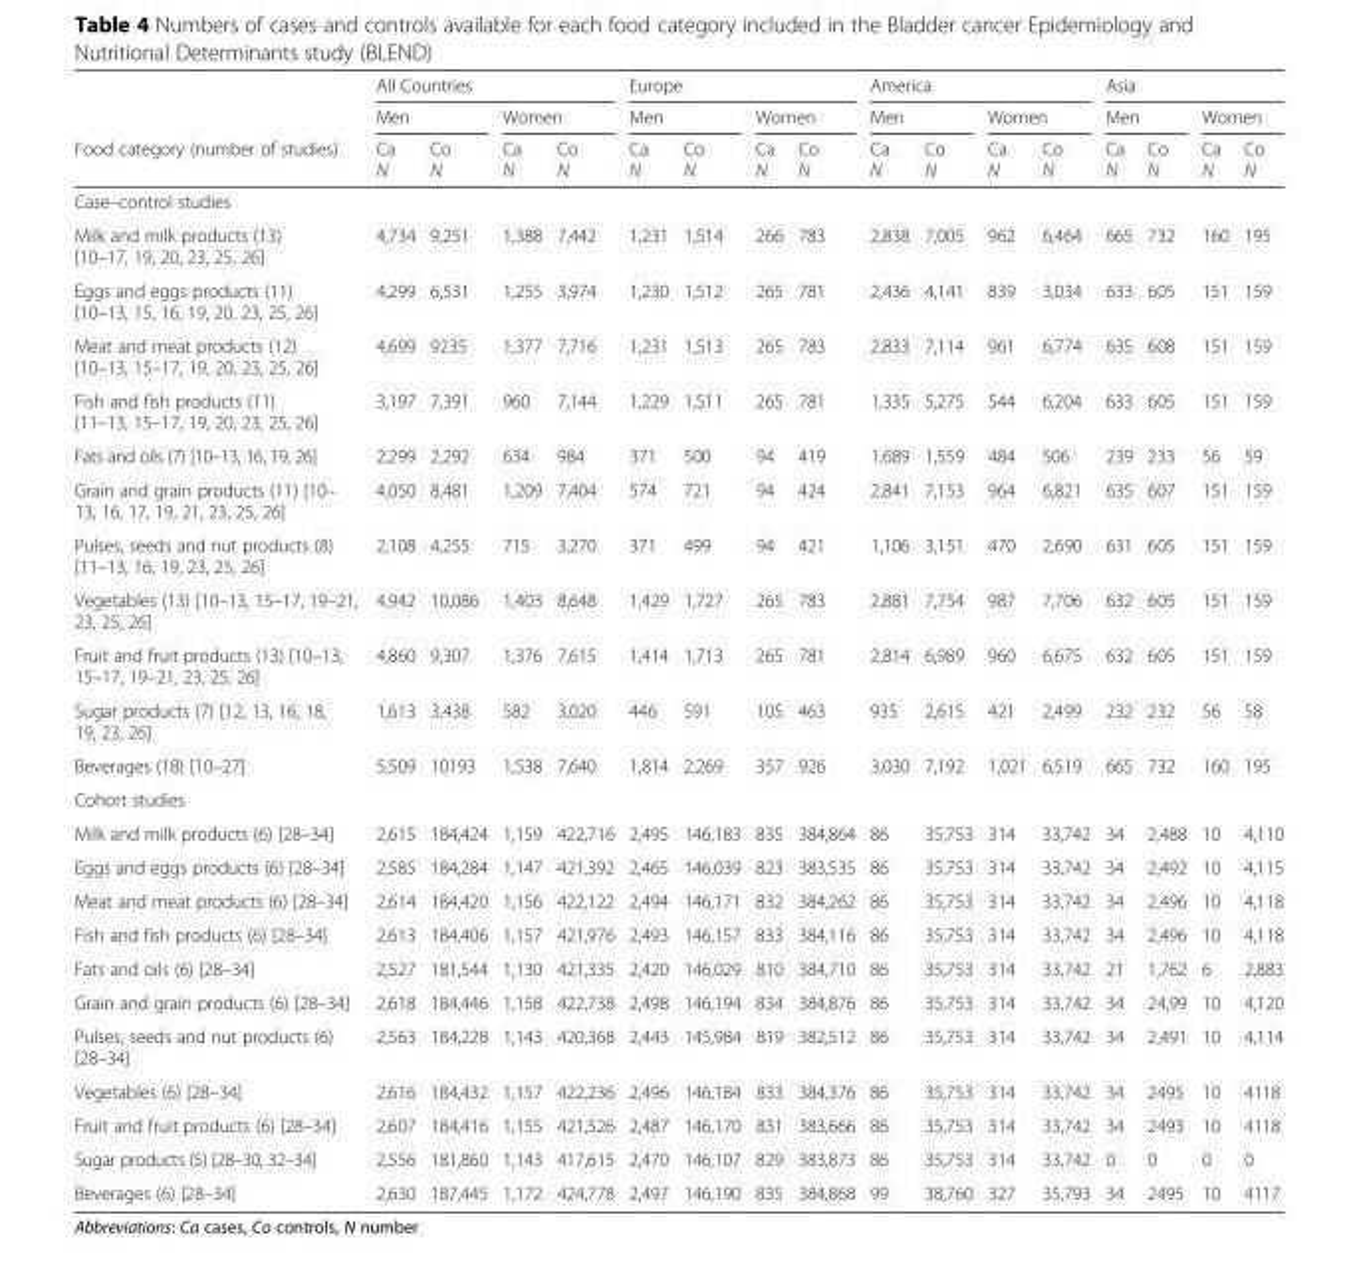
<table><thead><tr><td rowspan="3">Food category (number of studies)</td><td colspan="4">All Countries</td><td colspan="4">Europe</td><td colspan="4">America</td><td colspan="4">Asia</td></tr><tr><td colspan="2">Men</td><td colspan="2">Women</td><td colspan="2">Men</td><td colspan="2">Women</td><td colspan="2">Men</td><td colspan="2">Women</td><td colspan="2">Men</td><td colspan="2">Women</td></tr><tr><td>Ca N</td><td>Co N</td><td>Ca N</td><td>Co N</td><td>Ca N</td><td>Co N</td><td>Ca N</td><td>Co N</td><td>Ca N</td><td>Co N</td><td>Ca N</td><td>Co N</td><td>Ca N</td><td>Co N</td><td>Ca N</td><td>Co N</td></tr></thead><tbody><tr><td colspan="17">Case–control studies</td></tr><tr><td>Milk and milk products (13) [10–17, 19, 20, 23, 25, 26]</td><td>4,734</td><td>9,251</td><td>1,388</td><td>7,442</td><td>1,231</td><td>1,514</td><td>266</td><td>783</td><td>2,838</td><td>7,005</td><td>962</td><td>6,464</td><td>665</td><td>732</td><td>160</td><td>195</td></tr><tr><td>Eggs and eggs products (11) [10–13, 15, 16, 19, 20, 23, 25, 26]</td><td>4,299</td><td>6,531</td><td>1,255</td><td>3,974</td><td>1,230</td><td>1,512</td><td>265</td><td>781</td><td>2,436</td><td>4,141</td><td>839</td><td>3,034</td><td>633</td><td>605</td><td>151</td><td>159</td></tr><tr><td>Meat and meat products (12) [10–13, 15–17, 19, 20, 23, 25, 26]</td><td>4,699</td><td>9235</td><td>1,377</td><td>7,716</td><td>1,231</td><td>1,513</td><td>265</td><td>783</td><td>2,833</td><td>7,114</td><td>961</td><td>6,774</td><td>635</td><td>608</td><td>151</td><td>159</td></tr><tr><td>Fish and fish products (11) [11–13, 15–17, 19, 20, 23, 25, 26]</td><td>3,197</td><td>7,391</td><td>960</td><td>7,144</td><td>1,229</td><td>1,511</td><td>265</td><td>781</td><td>1,335</td><td>5,275</td><td>544</td><td>6,204</td><td>633</td><td>605</td><td>151</td><td>159</td></tr><tr><td>Fats and oils (7) [10–13, 16, 19, 26]</td><td>2,299</td><td>2,292</td><td>634</td><td>984</td><td>371</td><td>500</td><td>94</td><td>419</td><td>1,689</td><td>1,559</td><td>484</td><td>506</td><td>239</td><td>233</td><td>56</td><td>59</td></tr><tr><td>Grain and grain products (11) [10– 13, 16, 17, 19, 21, 23, 25, 26]</td><td>4,050</td><td>8,481</td><td>1,209</td><td>7,404</td><td>574</td><td>721</td><td>94</td><td>424</td><td>2,841</td><td>7,153</td><td>964</td><td>6,821</td><td>635</td><td>607</td><td>151</td><td>159</td></tr><tr><td>Pulses, seeds and nut products (8) [11–13, 16, 19, 23, 25, 26]</td><td>2,108</td><td>4,255</td><td>715</td><td>3,270</td><td>371</td><td>499</td><td>94</td><td>421</td><td>1,106</td><td>3,151</td><td>470</td><td>2,690</td><td>631</td><td>605</td><td>151</td><td>159</td></tr><tr><td>Vegetables (13) [10–13, 15–17, 19–21, 23, 25, 26]</td><td>4,942</td><td>10,086</td><td>1,403</td><td>8,648</td><td>1,429</td><td>1,727</td><td>265</td><td>783</td><td>2,881</td><td>7,754</td><td>987</td><td>7,706</td><td>632</td><td>605</td><td>151</td><td>159</td></tr><tr><td>Fruit and fruit products (13) [10–13, 15–17, 19–21, 23, 25, 26]</td><td>4,860</td><td>9,307</td><td>1,376</td><td>7,615</td><td>1,414</td><td>1,713</td><td>265</td><td>781</td><td>2,814</td><td>6,989</td><td>960</td><td>6,675</td><td>632</td><td>605</td><td>151</td><td>159</td></tr><tr><td>Sugar products (7) [12, 13, 16, 18, 19, 23, 26]</td><td>1,613</td><td>3,438</td><td>582</td><td>3,020</td><td>446</td><td>591</td><td>105</td><td>463</td><td>935</td><td>2,615</td><td>421</td><td>2,499</td><td>232</td><td>232</td><td>56</td><td>58</td></tr><tr><td>Beverages (18) [10–27]</td><td>5,509</td><td>10193</td><td>1,538</td><td>7,640</td><td>1,814</td><td>2,269</td><td>357</td><td>926</td><td>3,030</td><td>7,192</td><td>1,021</td><td>6,519</td><td>665</td><td>732</td><td>160</td><td>195</td></tr><tr><td colspan="17">Cohort studies</td></tr><tr><td>Milk and milk products (6) [28–34]</td><td>2,615</td><td>184,424</td><td>1,159</td><td>422,716</td><td>2,495</td><td>146,183</td><td>835</td><td>384,864</td><td>86</td><td>35,753</td><td>314</td><td>33,742</td><td>34</td><td>2,488</td><td>10</td><td>4,110</td></tr><tr><td>Eggs and eggs products (6) [28–34]</td><td>2,585</td><td>184,284</td><td>1,147</td><td>421,392</td><td>2,465</td><td>146,039</td><td>823</td><td>383,535</td><td>86</td><td>35,753</td><td>314</td><td>33,742</td><td>34</td><td>2,492</td><td>10</td><td>4,115</td></tr><tr><td>Meat and meat products (6) [28–34]</td><td>2,614</td><td>184,420</td><td>1,156</td><td>422,122</td><td>2,494</td><td>146,171</td><td>832</td><td>384,262</td><td>86</td><td>35,753</td><td>314</td><td>33,742</td><td>34</td><td>2,496</td><td>10</td><td>4,118</td></tr><tr><td>Fish and fish products (6) [28–34]</td><td>2,613</td><td>184,406</td><td>1,157</td><td>421,976</td><td>2,493</td><td>146,157</td><td>833</td><td>384,116</td><td>86</td><td>35,753</td><td>314</td><td>33,742</td><td>34</td><td>2,496</td><td>10</td><td>4,118</td></tr><tr><td>Fats and oils (6) [28–34]</td><td>2,527</td><td>181,544</td><td>1,130</td><td>421,335</td><td>2,420</td><td>146,029</td><td>810</td><td>384,710</td><td>86</td><td>35,753</td><td>314</td><td>33,742</td><td>21</td><td>1,762</td><td>6</td><td>2,883</td></tr><tr><td>Grain and grain products (6) [28–34]</td><td>2,618</td><td>184,446</td><td>1,158</td><td>422,738</td><td>2,498</td><td>146,194</td><td>834</td><td>384,876</td><td>86</td><td>35,753</td><td>314</td><td>33,742</td><td>34</td><td>24,99</td><td>10</td><td>4,120</td></tr><tr><td>Pulses, seeds and nut products (6) [28–34]</td><td>2,563</td><td>184,228</td><td>1,143</td><td>420,368</td><td>2,443</td><td>145,984</td><td>819</td><td>382,512</td><td>86</td><td>35,753</td><td>314</td><td>33,742</td><td>34</td><td>2,491</td><td>10</td><td>4,114</td></tr><tr><td>Vegetables (6) [28–34]</td><td>2,616</td><td>184,432</td><td>1,157</td><td>422,236</td><td>2,496</td><td>146,184</td><td>833</td><td>384,376</td><td>86</td><td>35,753</td><td>314</td><td>33,742</td><td>34</td><td>2495</td><td>10</td><td>4118</td></tr><tr><td>Fruit and fruit products (6) [28–34]</td><td>2,607</td><td>184,416</td><td>1,155</td><td>421,526</td><td>2,487</td><td>146,170</td><td>831</td><td>383,666</td><td>86</td><td>35,753</td><td>314</td><td>33,742</td><td>34</td><td>2493</td><td>10</td><td>4118</td></tr><tr><td>Sugar products (5) [28–30, 32–34]</td><td>2,556</td><td>181,860</td><td>1,143</td><td>417,615</td><td>2,470</td><td>146,107</td><td>829</td><td>383,873</td><td>86</td><td>35,753</td><td>314</td><td>33,742</td><td>0</td><td>0</td><td>0</td><td>0</td></tr><tr><td>Beverages (6) [28–34]</td><td>2,630</td><td>187,445</td><td>1,172</td><td>424,778</td><td>2,497</td><td>146,190</td><td>835</td><td>384,868</td><td>99</td><td>38,760</td><td>327</td><td>35,793</td><td>34</td><td>2495</td><td>10</td><td>4117</td></tr></tbody></table>